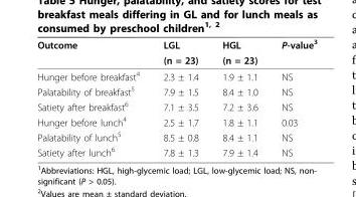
<table><thead><tr><td rowspan="2">Outcome</td><td rowspan="2">LGL (n = 23)</td><td rowspan="2">HGL (n = 23)</td><td rowspan="2">P-value<sup>3</sup></td></tr><tr></tr></thead><tbody><tr><td>Hunger before breakfast<sup>4</sup></td><td>2.3 ± 1.4</td><td>1.9 ± 1.1</td><td>NS</td></tr><tr><td>Palatability of breakfast<sup>5</sup></td><td>7.9 ± 1.5</td><td>8.4 ± 1.0</td><td>NS</td></tr><tr><td>Satiety after breakfast<sup>6</sup></td><td>7.1 ± 3.5</td><td>7.2 ± 3.6</td><td>NS</td></tr><tr><td>Hunger before lunch<sup>4</sup></td><td>2.5 ± 1.7</td><td>1.8 ± 1.1</td><td>0.03</td></tr><tr><td>Palatability of lunch<sup>5</sup></td><td>8.5 ± 0.8</td><td>8.4 ± 1.1</td><td>NS</td></tr><tr><td>Satiety after lunch<sup>6</sup></td><td>7.8 ± 1.3</td><td>7.9 ± 1.4</td><td>NS</td></tr></tbody></table>